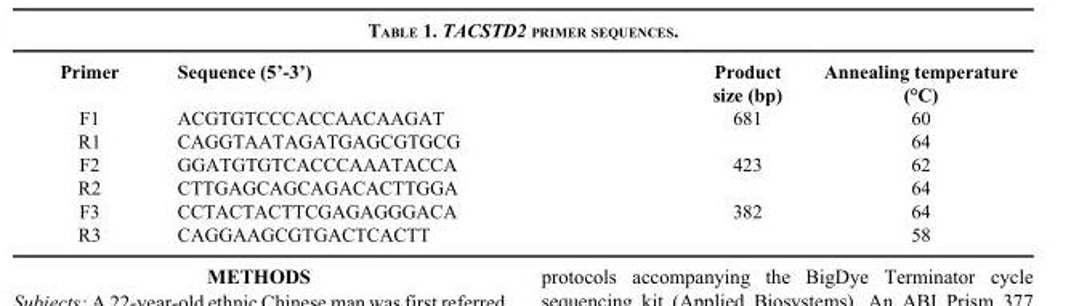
<table><thead><tr><td>Primer</td><td>Sequence (5’-3’)</td><td>Product size (bp)</td><td>Annealing temperature (°C)</td></tr></thead><tbody><tr><td>F1</td><td>ACGTGTCCCACCAACAAGAT</td><td>681</td><td>60</td></tr><tr><td>R1</td><td>CAGGTAATAGATGAGCGTGCG</td><td></td><td>64</td></tr><tr><td>F2</td><td>GGATGTGTCACCCAAATACCA</td><td>423</td><td>62</td></tr><tr><td>R2</td><td>CTTGAGCAGCAGACACTTGGA</td><td></td><td>64</td></tr><tr><td>F3</td><td>CCTACTACTTCGAGAGGGACA</td><td>382</td><td>64</td></tr><tr><td>R3</td><td>CAGGAAGCGTGACTCACTT</td><td></td><td>58</td></tr></tbody></table>